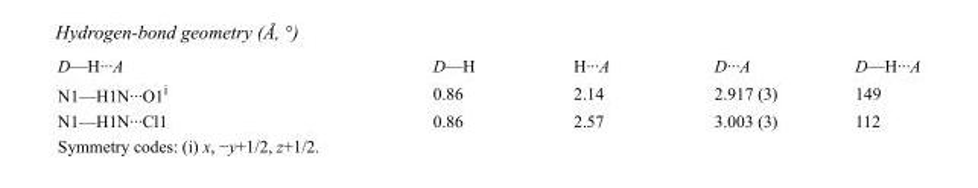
<table><tbody><tr><td>D—H···A</td><td>D—H</td><td>H···A</td><td>D···A</td><td>D—H···A</td></tr><tr><td>N1—H1N···O1<sup>i</sup></td><td>0.86</td><td>2.14</td><td>2.917 (3)</td><td>149</td></tr><tr><td>N1—H1N···Cl1</td><td>0.86</td><td>2.57</td><td>3.003 (3)</td><td>112</td></tr></tbody></table>